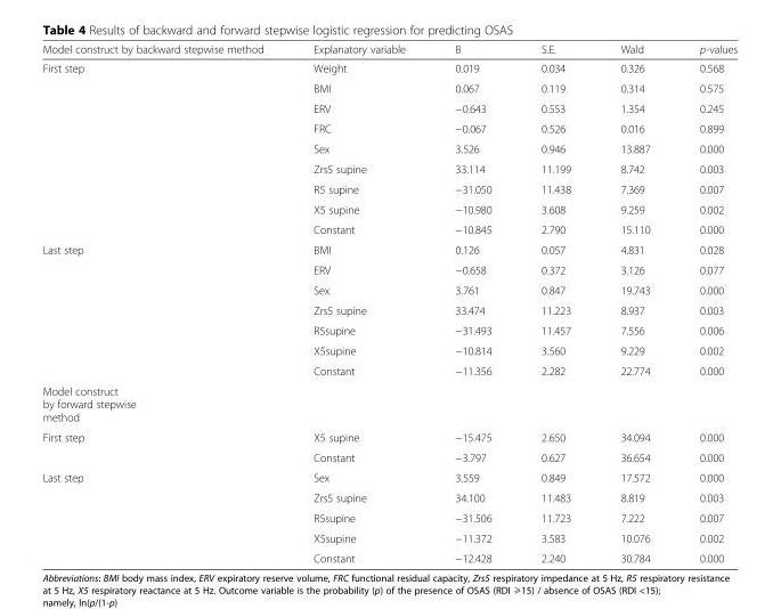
<table><thead><tr><td>Model construct by backward stepwise method</td><td>Explanatory variable</td><td>B</td><td>S.E.</td><td>Wald</td><td>p-values</td></tr></thead><tbody><tr><td rowspan="9">First step</td><td>Weight</td><td>0.019</td><td>0.034</td><td>0.326</td><td>0.568</td></tr><tr><td>BMI</td><td>0.067</td><td>0.119</td><td>0.314</td><td>0.575</td></tr><tr><td>ERV</td><td>−0.643</td><td>0.553</td><td>1.354</td><td>0.245</td></tr><tr><td>FRC</td><td>−0.067</td><td>0.526</td><td>0.016</td><td>0.899</td></tr><tr><td>Sex</td><td>3.526</td><td>0.946</td><td>13.887</td><td>0.000</td></tr><tr><td>Zrs5 supine</td><td>33.114</td><td>11.199</td><td>8.742</td><td>0.003</td></tr><tr><td>R5 supine</td><td>−31.050</td><td>11.438</td><td>7.369</td><td>0.007</td></tr><tr><td>X5 supine</td><td>−10.980</td><td>3.608</td><td>9.259</td><td>0.002</td></tr><tr><td>Constant</td><td>−10.845</td><td>2.790</td><td>15.110</td><td>0.000</td></tr><tr><td rowspan="7">Last step</td><td>BMI</td><td>0.126</td><td>0.057</td><td>4.831</td><td>0.028</td></tr><tr><td>ERV</td><td>−0.658</td><td>0.372</td><td>3.126</td><td>0.077</td></tr><tr><td>Sex</td><td>3.761</td><td>0.847</td><td>19.743</td><td>0.000</td></tr><tr><td>Zrs5 supine</td><td>33.474</td><td>11.223</td><td>8.937</td><td>0.003</td></tr><tr><td>R5supine</td><td>−31.493</td><td>11.457</td><td>7.556</td><td>0.006</td></tr><tr><td>X5supine</td><td>−10.814</td><td>3.560</td><td>9.229</td><td>0.002</td></tr><tr><td>Constant</td><td>−11.356</td><td>2.282</td><td>22.774</td><td>0.000</td></tr><tr><td colspan="6">Model construct by forward stepwise method</td></tr><tr><td rowspan="2">First step</td><td>X5 supine</td><td>−15.475</td><td>2.650</td><td>34.094</td><td>0.000</td></tr><tr><td>Constant</td><td>−3.797</td><td>0.627</td><td>36.654</td><td>0.000</td></tr><tr><td rowspan="5">Last step</td><td>Sex</td><td>3.559</td><td>0.849</td><td>17.572</td><td>0.000</td></tr><tr><td>Zrs5 supine</td><td>34.100</td><td>11.483</td><td>8.819</td><td>0.003</td></tr><tr><td>R5supine</td><td>−31.506</td><td>11.723</td><td>7.222</td><td>0.007</td></tr><tr><td>X5supine</td><td>−11.372</td><td>3.583</td><td>10.076</td><td>0.002</td></tr><tr><td>Constant</td><td>−12.428</td><td>2.240</td><td>30.784</td><td>0.000</td></tr></tbody></table>